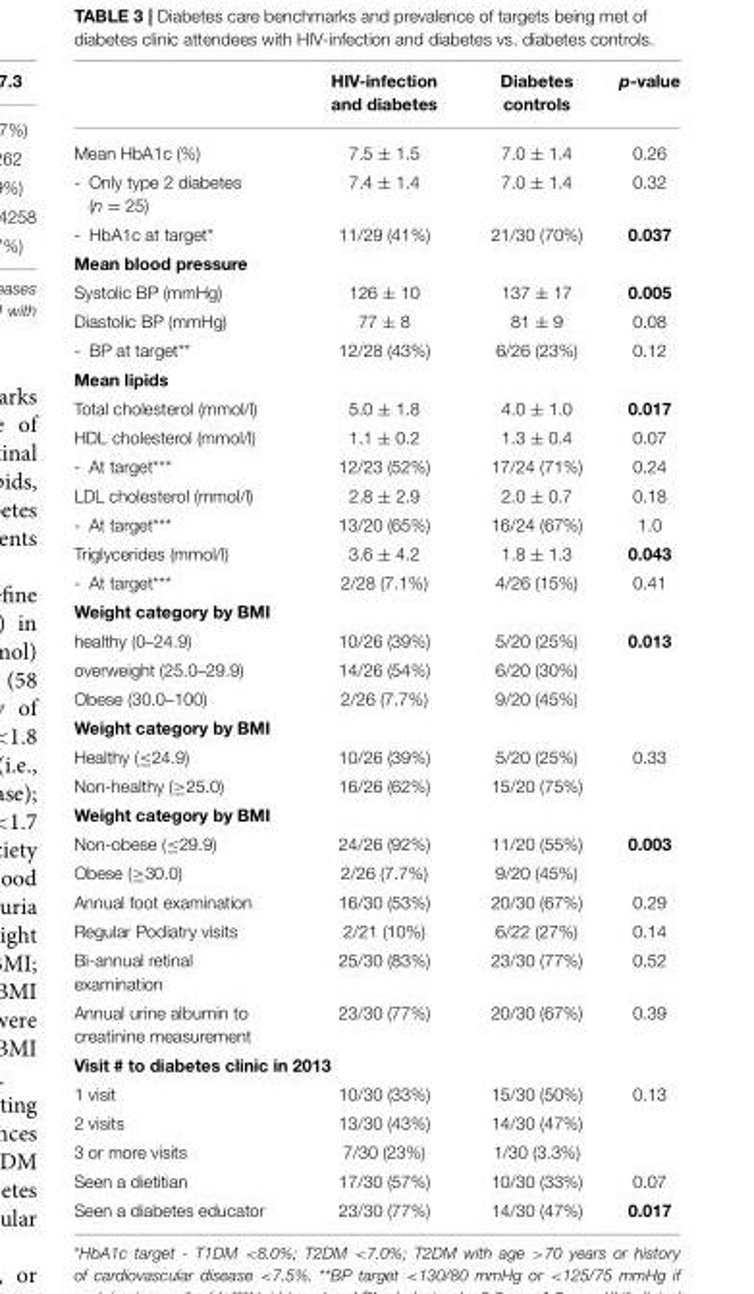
<table><thead><tr><td></td><td>HIV-infection and diabetes</td><td>Diabetes controls</td><td>p-value</td></tr></thead><tbody><tr><td>Mean HbA1c (%)</td><td>7.5 ± 1.5</td><td>7.0 ± 1.4</td><td>0.26</td></tr><tr><td>- Only type 2 diabetes (n = 25)</td><td>7.4 ± 1.4</td><td>7.0 ± 1.4</td><td>0.32</td></tr><tr><td>- HbA1c at target*</td><td>11/29 (41%)</td><td>21/30 (70%)</td><td>0.037</td></tr><tr><td colspan="4">Mean blood pressure</td></tr><tr><td>Systolic BP (mmHg)</td><td>126 ± 10</td><td>137 ± 17</td><td>0.005</td></tr><tr><td>Diastolic BP (mmHg)</td><td>77 ± 8</td><td>81 ± 9</td><td>0.08</td></tr><tr><td>- BP at target**</td><td>12/28 (43%)</td><td>6/26 (23%)</td><td>0.12</td></tr><tr><td colspan="4">Mean lipids</td></tr><tr><td>Total cholesterol (mmol/l)</td><td>5.0 ± 1.8</td><td>4.0 ± 1.0</td><td>0.017</td></tr><tr><td>HDL cholesterol (mmol/l)</td><td>1.1 ± 0.2</td><td>1.3 ± 0.4</td><td>0.07</td></tr><tr><td>- At target***</td><td>12/23 (52%)</td><td>17/24 (71%)</td><td>0.24</td></tr><tr><td>LDL cholesterol (mmol/l)</td><td>2.8 ± 2.9</td><td>2.0 ± 0.7</td><td>0.18</td></tr><tr><td>- At target***</td><td>13/20 (65%)</td><td>16/24 (67%)</td><td>1.0</td></tr><tr><td>Triglycerides (mmol/l)</td><td>3.6 ± 4.2</td><td>1.8 ± 1.3</td><td>0.043</td></tr><tr><td>- At target***</td><td>2/28 (7.1%)</td><td>4/26 (15%)</td><td>0.41</td></tr><tr><td colspan="4">Weight category by BMI</td></tr><tr><td>healthy (0–24.9)</td><td>10/26 (39%)</td><td>5/20 (25%)</td><td>0.013</td></tr><tr><td>overweight (25.0–29.9)</td><td>14/26 (54%)</td><td>6/20 (30%)</td><td></td></tr><tr><td>Obese (30.0–100)</td><td>2/26 (7.7%)</td><td>9/20 (45%)</td><td></td></tr><tr><td colspan="4">Weight category by BMI</td></tr><tr><td>Healthy (≤24.9)</td><td>10/26 (39%)</td><td>5/20 (25%)</td><td>0.33</td></tr><tr><td>Non-healthy (≥25.0)</td><td>16/26 (62%)</td><td>15/20 (75%)</td><td></td></tr><tr><td colspan="4">Weight category by BMI</td></tr><tr><td>Non-obese (≤29.9)</td><td>24/26 (92%)</td><td>11/20 (55%)</td><td>0.003</td></tr><tr><td>Obese (≥30.0)</td><td>2/26 (7.7%)</td><td>9/20 (45%)</td><td></td></tr><tr><td>Annual foot examination</td><td>16/30 (53%)</td><td>20/30 (67%)</td><td>0.29</td></tr><tr><td>Regular Podiatry visits</td><td>2/21 (10%)</td><td>6/22 (27%)</td><td>0.14</td></tr><tr><td>Bi-annual retinal examination</td><td>25/30 (83%)</td><td>23/30 (77%)</td><td>0.52</td></tr><tr><td>Annual urine albumin to creatinine measurement</td><td>23/30 (77%)</td><td>20/30 (67%)</td><td>0.39</td></tr><tr><td colspan="4">Visit # to diabetes clinic in 2013</td></tr><tr><td>1 visit</td><td>10/30 (33%)</td><td>15/30 (50%)</td><td>0.13</td></tr><tr><td>2 visits</td><td>13/30 (43%)</td><td>14/30 (47%)</td><td></td></tr><tr><td>3 or more visits</td><td>7/30 (23%)</td><td>1/30 (3.3%)</td><td></td></tr><tr><td>Seen a dietitian</td><td>17/30 (57%)</td><td>10/30 (33%)</td><td>0.07</td></tr><tr><td>Seen a diabetes educator</td><td>23/30 (77%)</td><td>14/30 (47%)</td><td>0.017</td></tr></tbody></table>